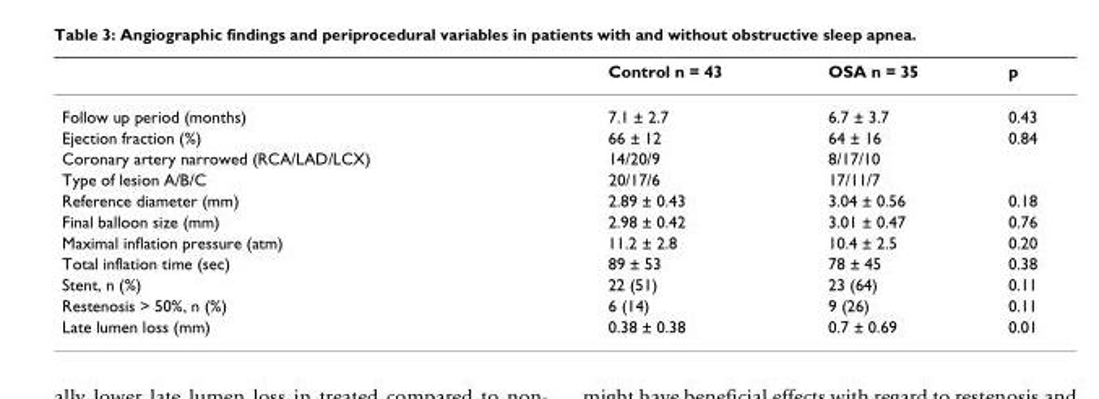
<table><thead><tr><td></td><td>Control n = 43</td><td>OSA n = 35</td><td>p</td></tr></thead><tbody><tr><td>Follow up period (months)</td><td>7.1 ± 2.7</td><td>6.7 ± 3.7</td><td>0.43</td></tr><tr><td>Ejection fraction (%)</td><td>66 ± 12</td><td>64 ± 16</td><td>0.84</td></tr><tr><td>Coronary artery narrowed (RCA/LAD/LCX)</td><td>14/20/9</td><td>8/17/10</td><td></td></tr><tr><td>Type of lesion A/B/C</td><td>20/17/6</td><td>17/11/7</td><td></td></tr><tr><td>Reference diameter (mm)</td><td>2.89 ± 0.43</td><td>3.04 ± 0.56</td><td>0.18</td></tr><tr><td>Final balloon size (mm)</td><td>2.98 ± 0.42</td><td>3.01 ± 0.47</td><td>0.76</td></tr><tr><td>Maximal inflation pressure (atm)</td><td>11.2 ± 2.8</td><td>10.4 ± 2.5</td><td>0.20</td></tr><tr><td>Total inflation time (sec)</td><td>89 ± 53</td><td>78 ± 45</td><td>0.38</td></tr><tr><td>Stent, n (%)</td><td>22 (51)</td><td>23 (64)</td><td>0.11</td></tr><tr><td>Restenosis &gt; 50%, n (%)</td><td>6 (14)</td><td>9 (26)</td><td>0.11</td></tr><tr><td>Late lumen loss (mm)</td><td>0.38 ± 0.38</td><td>0.7 ± 0.69</td><td>0.01</td></tr></tbody></table>